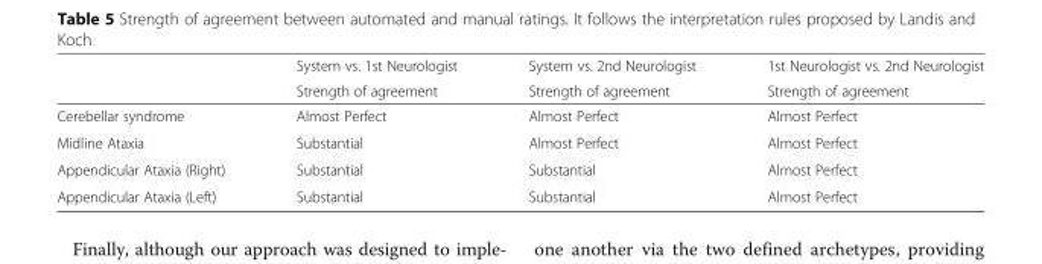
<table><thead><tr><td rowspan="2"></td><td rowspan="2">System vs. 1st Neurologist Strength of agreement</td><td rowspan="2">System vs. 2nd Neurologist Strength of agreement</td><td rowspan="2">1st Neurologist vs. 2nd Neurologist Strength of agreement</td></tr><tr></tr></thead><tbody><tr><td>Cerebellar syndrome</td><td>Almost Perfect</td><td>Almost Perfect</td><td>Almost Perfect</td></tr><tr><td>Midline Ataxia</td><td>Substantial</td><td>Almost Perfect</td><td>Almost Perfect</td></tr><tr><td>Appendicular Ataxia (Right)</td><td>Substantial</td><td>Substantial</td><td>Almost Perfect</td></tr><tr><td>Appendicular Ataxia (Left)</td><td>Substantial</td><td>Substantial</td><td>Almost Perfect</td></tr></tbody></table>